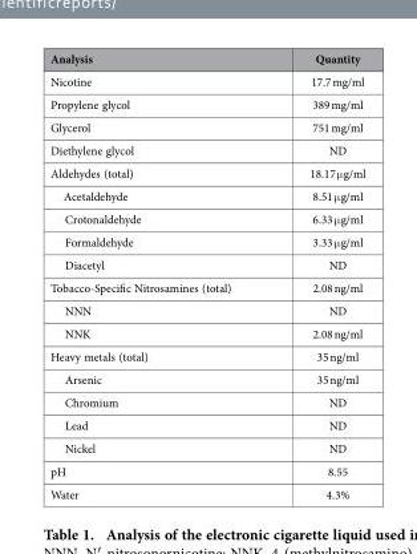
<table><thead><tr><td>Analysis</td><td>Quantity</td></tr></thead><tbody><tr><td>Nicotine</td><td>17.7 mg/ml</td></tr><tr><td>Propylene glycol</td><td>389 mg/ml</td></tr><tr><td>Glycerol</td><td>751 mg/ml</td></tr><tr><td>Diethylene glycol</td><td>ND</td></tr><tr><td>Aldehydes (total)</td><td>18.17 μ g/ml</td></tr><tr><td>Acetaldehyde</td><td>8.51 μ g/ml</td></tr><tr><td>Crotonaldehyde</td><td>6.33 μ g/ml</td></tr><tr><td>Formaldehyde</td><td>3.33 μ g/ml</td></tr><tr><td>Diacetyl</td><td>ND</td></tr><tr><td>Tobacco-Specific Nitrosamines (total)</td><td>2.08 ng/ml</td></tr><tr><td>NNN</td><td>ND</td></tr><tr><td>NNK</td><td>2.08 ng/ml</td></tr><tr><td>Heavy metals (total)</td><td>35 ng/ml</td></tr><tr><td>Arsenic</td><td>35 ng/ml</td></tr><tr><td>Chromium</td><td>ND</td></tr><tr><td>Lead</td><td>ND</td></tr><tr><td>Nickel</td><td>ND</td></tr><tr><td>pH</td><td>8.55</td></tr><tr><td>Water</td><td>4.3%</td></tr></tbody></table>